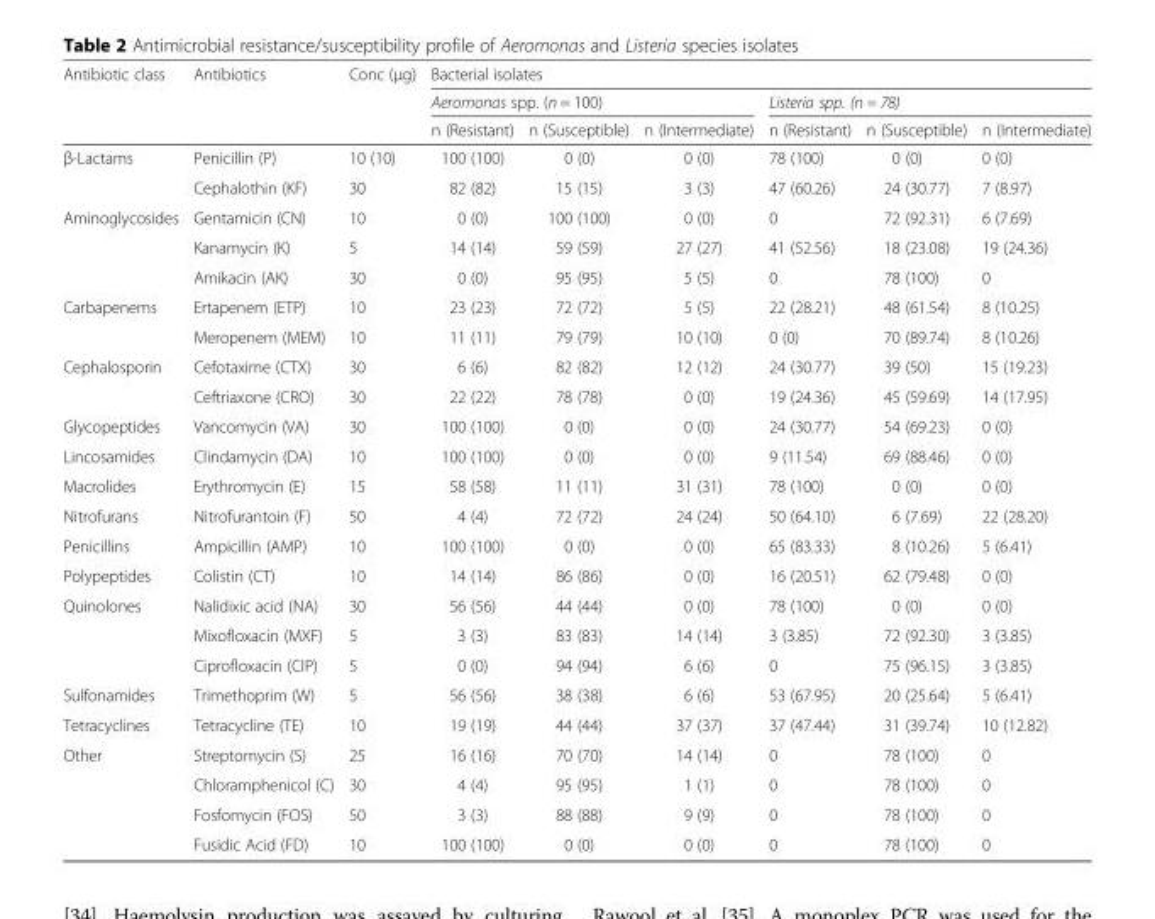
<table><thead><tr><td rowspan="3">Antibiotic class</td><td rowspan="3">Antibiotics</td><td rowspan="3">Conc (μg)</td><td colspan="6">Bacterial isolates</td></tr><tr><td colspan="3">Aeromonas spp. (n = 100)</td><td colspan="3">Listeria spp. (n = 78)</td></tr><tr><td>n (Resistant)</td><td>n (Susceptible)</td><td>n (Intermediate)</td><td>n (Resistant)</td><td>n (Susceptible)</td><td>n (Intermediate)</td></tr></thead><tbody><tr><td rowspan="2">β-Lactams</td><td>Penicillin (P)</td><td>10 (10)</td><td>100 (100)</td><td>0 (0)</td><td>0 (0)</td><td>78 (100)</td><td>0 (0)</td><td>0 (0)</td></tr><tr><td>Cephalothin (KF)</td><td>30</td><td>82 (82)</td><td>15 (15)</td><td>3 (3)</td><td>47 (60.26)</td><td>24 (30.77)</td><td>7 (8.97)</td></tr><tr><td rowspan="3">Aminoglycosides</td><td>Gentamicin (CN)</td><td>10</td><td>0 (0)</td><td>100 (100)</td><td>0 (0)</td><td>0</td><td>72 (92.31)</td><td>6 (7.69)</td></tr><tr><td>Kanamycin (K)</td><td>5</td><td>14 (14)</td><td>59 (59)</td><td>27 (27)</td><td>41 (52.56)</td><td>18 (23.08)</td><td>19 (24.36)</td></tr><tr><td>Amikacin (AK)</td><td>30</td><td>0 (0)</td><td>95 (95)</td><td>5 (5)</td><td>0</td><td>78 (100)</td><td>0</td></tr><tr><td rowspan="2">Carbapenems</td><td>Ertapenem (ETP)</td><td>10</td><td>23 (23)</td><td>72 (72)</td><td>5 (5)</td><td>22 (28.21)</td><td>48 (61.54)</td><td>8 (10.25)</td></tr><tr><td>Meropenem (MEM)</td><td>10</td><td>11 (11)</td><td>79 (79)</td><td>10 (10)</td><td>0 (0)</td><td>70 (89.74)</td><td>8 (10.26)</td></tr><tr><td rowspan="2">Cephalosporin</td><td>Cefotaxime (CTX)</td><td>30</td><td>6 (6)</td><td>82 (82)</td><td>12 (12)</td><td>24 (30.77)</td><td>39 (50)</td><td>15 (19.23)</td></tr><tr><td>Ceftriaxone (CRO)</td><td>30</td><td>22 (22)</td><td>78 (78)</td><td>0 (0)</td><td>19 (24.36)</td><td>45 (59.69)</td><td>14 (17.95)</td></tr><tr><td>Glycopeptides</td><td>Vancomycin (VA)</td><td>30</td><td>100 (100)</td><td>0 (0)</td><td>0 (0)</td><td>24 (30.77)</td><td>54 (69.23)</td><td>0 (0)</td></tr><tr><td>Lincosamides</td><td>Clindamycin (DA)</td><td>10</td><td>100 (100)</td><td>0 (0)</td><td>0 (0)</td><td>9 (11.54)</td><td>69 (88.46)</td><td>0 (0)</td></tr><tr><td>Macrolides</td><td>Erythromycin (E)</td><td>15</td><td>58 (58)</td><td>11 (11)</td><td>31 (31)</td><td>78 (100)</td><td>0 (0)</td><td>0 (0)</td></tr><tr><td>Nitrofurans</td><td>Nitrofurantoin (F)</td><td>50</td><td>4 (4)</td><td>72 (72)</td><td>24 (24)</td><td>50 (64.10)</td><td>6 (7.69)</td><td>22 (28.20)</td></tr><tr><td>Penicillins</td><td>Ampicillin (AMP)</td><td>10</td><td>100 (100)</td><td>0 (0)</td><td>0 (0)</td><td>65 (83.33)</td><td>8 (10.26)</td><td>5 (6.41)</td></tr><tr><td>Polypeptides</td><td>Colistin (CT)</td><td>10</td><td>14 (14)</td><td>86 (86)</td><td>0 (0)</td><td>16 (20.51)</td><td>62 (79.48)</td><td>0 (0)</td></tr><tr><td rowspan="3">Quinolones</td><td>Nalidixic acid (NA)</td><td>30</td><td>56 (56)</td><td>44 (44)</td><td>0 (0)</td><td>78 (100)</td><td>0 (0)</td><td>0 (0)</td></tr><tr><td>Mixofloxacin (MXF)</td><td>5</td><td>3 (3)</td><td>83 (83)</td><td>14 (14)</td><td>3 (3.85)</td><td>72 (92.30)</td><td>3 (3.85)</td></tr><tr><td>Ciprofloxacin (CIP)</td><td>5</td><td>0 (0)</td><td>94 (94)</td><td>6 (6)</td><td>0</td><td>75 (96.15)</td><td>3 (3.85)</td></tr><tr><td>Sulfonamides</td><td>Trimethoprim (W)</td><td>5</td><td>56 (56)</td><td>38 (38)</td><td>6 (6)</td><td>53 (67.95)</td><td>20 (25.64)</td><td>5 (6.41)</td></tr><tr><td>Tetracyclines</td><td>Tetracycline (TE)</td><td>10</td><td>19 (19)</td><td>44 (44)</td><td>37 (37)</td><td>37 (47.44)</td><td>31 (39.74)</td><td>10 (12.82)</td></tr><tr><td rowspan="4">Other</td><td>Streptomycin (S)</td><td>25</td><td>16 (16)</td><td>70 (70)</td><td>14 (14)</td><td>0</td><td>78 (100)</td><td>0</td></tr><tr><td>Chloramphenicol (C)</td><td>30</td><td>4 (4)</td><td>95 (95)</td><td>1 (1)</td><td>0</td><td>78 (100)</td><td>0</td></tr><tr><td>Fosfomycin (FOS)</td><td>50</td><td>3 (3)</td><td>88 (88)</td><td>9 (9)</td><td>0</td><td>78 (100)</td><td>0</td></tr><tr><td>Fusidic Acid (FD)</td><td>10</td><td>100 (100)</td><td>0 (0)</td><td>0 (0)</td><td>0</td><td>78 (100)</td><td>0</td></tr></tbody></table>